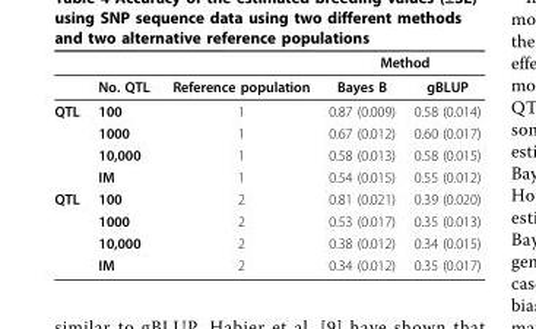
<table><thead><tr><td rowspan="2"></td><td rowspan="2">No. QTL</td><td rowspan="2">Reference population</td><td colspan="2">Method</td></tr><tr><td>Bayes B</td><td>gBLUP</td></tr></thead><tbody><tr><td rowspan="4">QTL</td><td>100</td><td>1</td><td>0.87 (0.009)</td><td>0.58 (0.014)</td></tr><tr><td>1000</td><td>1</td><td>0.67 (0.012)</td><td>0.60 (0.017)</td></tr><tr><td>10,000</td><td>1</td><td>0.58 (0.013)</td><td>0.58 (0.015)</td></tr><tr><td>IM</td><td>1</td><td>0.54 (0.015)</td><td>0.55 (0.012)</td></tr><tr><td rowspan="4">QTL</td><td>100</td><td>2</td><td>0.81 (0.021)</td><td>0.39 (0.020)</td></tr><tr><td>1000</td><td>2</td><td>0.53 (0.017)</td><td>0.35 (0.013)</td></tr><tr><td>10,000</td><td>2</td><td>0.38 (0.012)</td><td>0.34 (0.015)</td></tr><tr><td>IM</td><td>2</td><td>0.34 (0.012)</td><td>0.35 (0.017)</td></tr></tbody></table>